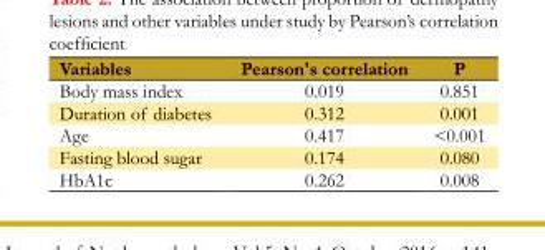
<table><tbody><tr><td>Variables</td><td>Pearson&#x27;s correlation</td><td>P</td></tr><tr><td>Body mass index</td><td>0.019</td><td>0.851</td></tr><tr><td>Duration of diabetes</td><td>0.312</td><td>0.001</td></tr><tr><td>Age</td><td>0.417</td><td>&lt;0.001</td></tr><tr><td>Fasting blood sugar</td><td>0.174</td><td>0.080</td></tr><tr><td>HbA1c</td><td>0.262</td><td>0.008</td></tr></tbody></table>